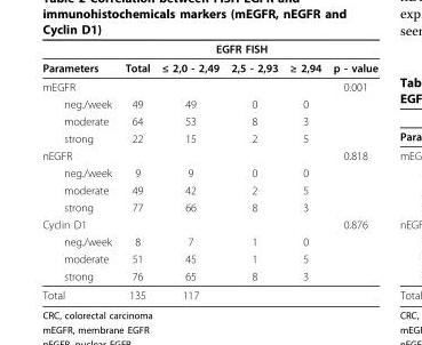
<table><thead><tr><td rowspan="2">Parameters</td><td rowspan="2">Total</td><td colspan="3">EGFR FISH</td><td rowspan="2">p - value</td></tr><tr><td>≤ 2,0 - 2,49</td><td>2,5 - 2,93</td><td>≥ 2,94</td></tr></thead><tbody><tr><td>mEGFR</td><td></td><td></td><td></td><td></td><td>0.001</td></tr><tr><td>neg./week</td><td>49</td><td>49</td><td>0</td><td>0</td><td></td></tr><tr><td>moderate</td><td>64</td><td>53</td><td>8</td><td>3</td><td></td></tr><tr><td>strong</td><td>22</td><td>15</td><td>2</td><td>5</td><td></td></tr><tr><td>nEGFR</td><td></td><td></td><td></td><td></td><td>0.818</td></tr><tr><td>neg./week</td><td>9</td><td>9</td><td>0</td><td>0</td><td></td></tr><tr><td>moderate</td><td>49</td><td>42</td><td>2</td><td>5</td><td></td></tr><tr><td>strong</td><td>77</td><td>66</td><td>8</td><td>3</td><td></td></tr><tr><td>Cyclin D1</td><td></td><td></td><td></td><td></td><td>0.876</td></tr><tr><td>neg./week</td><td>8</td><td>7</td><td>1</td><td>0</td><td></td></tr><tr><td>moderate</td><td>51</td><td>45</td><td>1</td><td>5</td><td></td></tr><tr><td>strong</td><td>76</td><td>65</td><td>8</td><td>3</td><td></td></tr><tr><td>Total</td><td>135</td><td>117</td><td></td><td></td><td></td></tr></tbody></table>